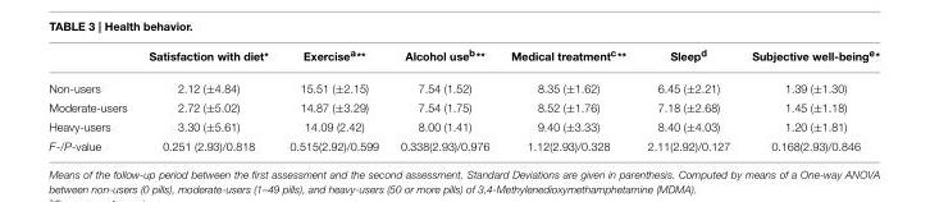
<table><thead><tr><td></td><td>Satisfaction with diet*</td><td>Exercise<sup>a**</sup></td><td>Alcohol use<sup>b**</sup></td><td>Medical treatment<sup>c**</sup></td><td>Sleep<sup>d</sup></td><td>Subjective well-being<sup>e*</sup></td></tr></thead><tbody><tr><td>Non-users</td><td>2.12 (±4.84)</td><td>15.51 (±2.15)</td><td>7.54 (1.52)</td><td>8.35 (±1.62)</td><td>6.45 (±2.21)</td><td>1.39 (±1.30)</td></tr><tr><td>Moderate-users</td><td>2.72 (±5.02)</td><td>14.87 (±3.29)</td><td>7.54 (1.75)</td><td>8.52 (±1.76)</td><td>7.18 (±2.68)</td><td>1.45 (±1.18)</td></tr><tr><td>Heavy-users</td><td>3.30 (±5.61)</td><td>14.09 (2.42)</td><td>8.00 (1.41)</td><td>9.40 (±3.33)</td><td>8.40 (±4.03)</td><td>1.20 (±1.81)</td></tr><tr><td>F-/P-value</td><td>0.251 (2.93)/0.818</td><td>0.515(2.92)/0.599</td><td>0.338(2.93)/0.976</td><td>1.12(2.93)/0.328</td><td>2.11(2.92)/0.127</td><td>0.168(2.93)/0.846</td></tr></tbody></table>